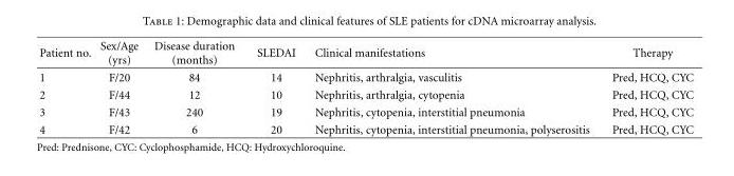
<table><thead><tr><td>Patient no.</td><td>Sex/Age (yrs)</td><td>Disease duration (months)</td><td>SLEDAI</td><td>Clinical manifestations</td><td>Therapy</td></tr></thead><tbody><tr><td>1</td><td>F/20</td><td>84</td><td>14</td><td>Nephritis, arthralgia, vasculitis</td><td>Pred, HCQ, CYC</td></tr><tr><td>2</td><td>F/44</td><td>12</td><td>10</td><td>Nephritis, arthralgia, cytopenia</td><td>Pred, HCQ, CYC</td></tr><tr><td>3</td><td>F/43</td><td>240</td><td>19</td><td>Nephritis, cytopenia, interstitial pneumonia</td><td>Pred, HCQ, CYC</td></tr><tr><td>4</td><td>F/42</td><td>6</td><td>20</td><td>Nephritis, cytopenia, interstitial pneumonia, polyserositis</td><td>Pred, HCQ, CYC</td></tr></tbody></table>